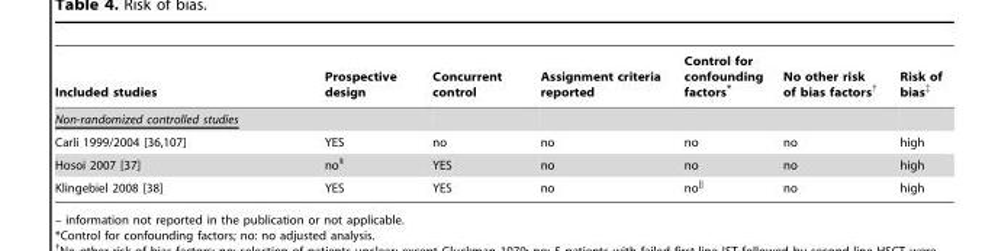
<table><thead><tr><td>Included studies</td><td>Prospective design</td><td>Concurrent control</td><td>Assignment criteria reported</td><td>Control for confounding factors*</td><td>No other risk of bias factors†</td><td>Risk of bias‡</td></tr></thead><tbody><tr><td colspan="7">Non-randomized controlled studies</td></tr><tr><td>Carli 1999/2004 [36,107]</td><td>YES</td><td>no</td><td>no</td><td>no</td><td>no</td><td>high</td></tr><tr><td>Hosoi 2007 [37]</td><td>no§</td><td>YES</td><td>no</td><td>no</td><td>no</td><td>high</td></tr><tr><td>Klingebiel 2008 [38]</td><td>YES</td><td>YES</td><td>no</td><td>no||</td><td>no</td><td>high</td></tr></tbody></table>